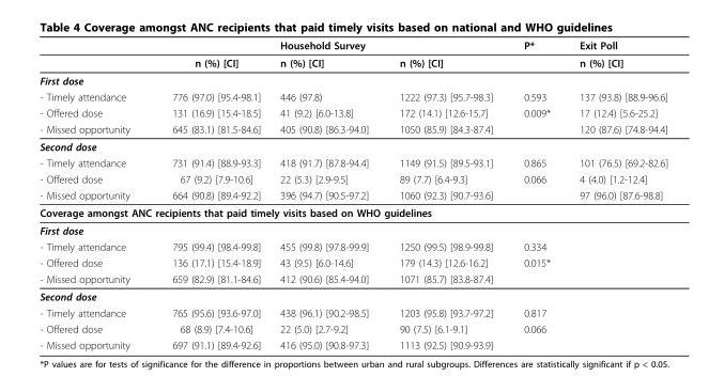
<table><thead><tr><td></td><td></td><td>Household Survey</td><td></td><td>P*</td><td>Exit Poll</td></tr></thead><tbody><tr><td></td><td>n (%) [CI]</td><td>n (%) [CI]</td><td>n (%) [CI]</td><td></td><td>n (%) [CI]</td></tr><tr><td colspan="6">First dose</td></tr><tr><td>- Timely attendance</td><td>776 (97.0) [95.4-98.1]</td><td>446 (97.8)</td><td>1222 (97.3) [95.7-98.3]</td><td>0.593</td><td>137 (93.8) [88.9-96.6]</td></tr><tr><td>- Offered dose</td><td>131 (16.9) [15.4-18.5]</td><td>41 (9.2) [6.0-13.8]</td><td>172 (14.1) [12.6-15.7]</td><td>0.009*</td><td>17 (12.4) [5.6-25.2]</td></tr><tr><td>- Missed opportunity</td><td>645 (83.1) [81.5-84.6]</td><td>405 (90.8) [86.3-94.0]</td><td>1050 (85.9) [84.3-87.4]</td><td></td><td>120 (87.6) [74.8-94.4]</td></tr><tr><td colspan="6">Second dose</td></tr><tr><td>- Timely attendance</td><td>731 (91.4) [88.9-93.3]</td><td>418 (91.7) [87.8-94.4]</td><td>1149 (91.5) [89.5-93.1]</td><td>0.865</td><td>101 (76.5) [69.2-82.6]</td></tr><tr><td>- Offered dose</td><td>67 (9.2) [7.9-10.6]</td><td>22 (5.3) [2.9-9.5]</td><td>89 (7.7) [6.4-9.3]</td><td>0.066</td><td>4 (4.0) [1.2-12.4]</td></tr><tr><td>- Missed opportunity</td><td>664 (90.8) [89.4-92.2]</td><td>396 (94.7) [90.5-97.2]</td><td>1060 (92.3) [90.7-93.6]</td><td></td><td>97 (96.0) [87.6-98.8]</td></tr><tr><td colspan="6">Coverage amongst ANC recipients that paid timely visits based on WHO guidelines</td></tr><tr><td colspan="6">First dose</td></tr><tr><td>- Timely attendance</td><td>795 (99.4) [98.4-99.8]</td><td>455 (99.8) [97.8-99.9]</td><td>1250 (99.5) [98.9-99.8]</td><td>0.334</td><td></td></tr><tr><td>- Offered dose</td><td>136 (17.1) [15.4-18.9]</td><td>43 (9.5) [6.0-14.6]</td><td>179 (14.3) [12.6-16.2]</td><td>0.015*</td><td></td></tr><tr><td>- Missed opportunity</td><td>659 (82.9) [81.1-84.6]</td><td>412 (90.6) [85.4-94.0]</td><td>1071 (85.7) [83.8-87.4]</td><td></td><td></td></tr><tr><td colspan="6">Second dose</td></tr><tr><td>- Timely attendance</td><td>765 (95.6) [93.6-97.0]</td><td>438 (96.1) [90.2-98.5]</td><td>1203 (95.8) [93.7-97.2]</td><td>0.817</td><td></td></tr><tr><td>- Offered dose</td><td>68 (8.9) [7.4-10.6]</td><td>22 (5.0) [2.7-9.2]</td><td>90 (7.5) [6.1-9.1]</td><td>0.066</td><td></td></tr><tr><td>- Missed opportunity</td><td>697 (91.1) [89.4-92.6]</td><td>416 (95.0) [90.8-97.3]</td><td>1113 (92.5) [90.9-93.9]</td><td></td><td></td></tr></tbody></table>